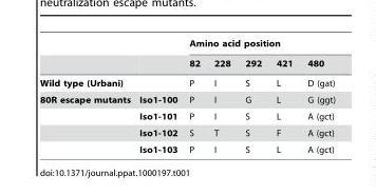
<table><thead><tr><td rowspan="2"></td><td rowspan="2"></td><td colspan="5">Amino acid position</td></tr><tr><td>82</td><td>228</td><td>292</td><td>421</td><td>480</td></tr></thead><tbody><tr><td colspan="2">Wild type (Urbani)</td><td>P</td><td>I</td><td>S</td><td>L</td><td>D (gat)</td></tr><tr><td rowspan="4">80R escape mutants</td><td>Iso1-100</td><td>P</td><td>I</td><td>G</td><td>L</td><td>G (ggt)</td></tr><tr><td>Iso1-101</td><td>P</td><td>I</td><td>S</td><td>L</td><td>A (gct)</td></tr><tr><td>Iso1-102</td><td>S</td><td>T</td><td>S</td><td>F</td><td>A (gct)</td></tr><tr><td>Iso1-103</td><td>P</td><td>I</td><td>S</td><td>L</td><td>A (gct)</td></tr></tbody></table>